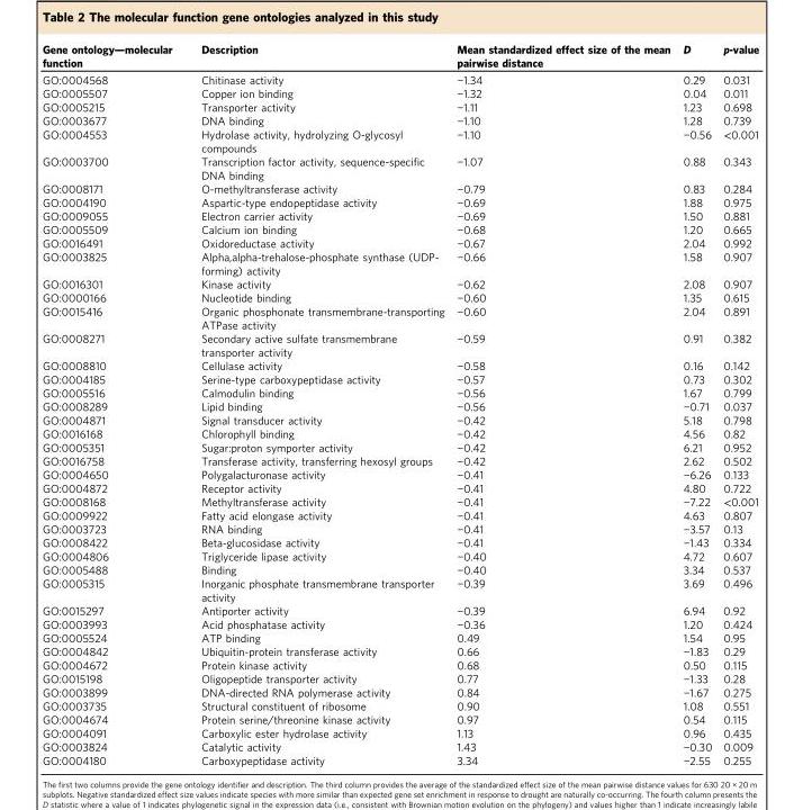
<table><thead><tr><td>Gene ontology—molecular function</td><td>Description</td><td>Mean standardized effect size of the mean pairwise distance</td><td>D</td><td>p-value</td></tr></thead><tbody><tr><td>GO:0004568</td><td>Chitinase activity</td><td>−1.34</td><td>0.29</td><td>0.031</td></tr><tr><td>GO:0005507</td><td>Copper ion binding</td><td>−1.32</td><td>0.04</td><td>0.011</td></tr><tr><td>GO:0005215</td><td>Transporter activity</td><td>−1.11</td><td>1.23</td><td>0.698</td></tr><tr><td>GO:0003677</td><td>DNA binding</td><td>−1.10</td><td>1.28</td><td>0.739</td></tr><tr><td>GO:0004553</td><td>Hydrolase activity, hydrolyzing O-glycosyl compounds</td><td>−1.10</td><td>−0.56</td><td>&lt;0.001</td></tr><tr><td>GO:0003700</td><td>Transcription factor activity, sequence-specific DNA binding</td><td>−1.07</td><td>0.88</td><td>0.343</td></tr><tr><td>GO:0008171</td><td>O-methyltransferase activity</td><td>−0.79</td><td>0.83</td><td>0.284</td></tr><tr><td>GO:0004190</td><td>Aspartic-type endopeptidase activity</td><td>−0.69</td><td>1.88</td><td>0.975</td></tr><tr><td>GO:0009055</td><td>Electron carrier activity</td><td>−0.69</td><td>1.50</td><td>0.881</td></tr><tr><td>GO:0005509</td><td>Calcium ion binding</td><td>−0.68</td><td>1.20</td><td>0.665</td></tr><tr><td>GO:0016491</td><td>Oxidoreductase activity</td><td>−0.67</td><td>2.04</td><td>0.992</td></tr><tr><td>GO:0003825</td><td>Alpha,alpha-trehalose-phosphate synthase (UDP- forming) activity</td><td>−0.66</td><td>1.58</td><td>0.907</td></tr><tr><td>GO:0016301</td><td>Kinase activity</td><td>−0.62</td><td>2.08</td><td>0.907</td></tr><tr><td>GO:0000166</td><td>Nucleotide binding</td><td>−0.60</td><td>1.35</td><td>0.615</td></tr><tr><td>GO:0015416</td><td>Organic phosphonate transmembrane-transporting ATPase activity</td><td>−0.60</td><td>2.04</td><td>0.891</td></tr><tr><td>GO:0008271</td><td>Secondary active sulfate transmembrane transporter activity</td><td>−0.59</td><td>0.91</td><td>0.382</td></tr><tr><td>GO:0008810</td><td>Cellulase activity</td><td>−0.58</td><td>0.16</td><td>0.142</td></tr><tr><td>GO:0004185</td><td>Serine-type carboxypeptidase activity</td><td>−0.57</td><td>0.73</td><td>0.302</td></tr><tr><td>GO:0005516</td><td>Calmodulin binding</td><td>−0.56</td><td>1.67</td><td>0.799</td></tr><tr><td>GO:0008289</td><td>Lipid binding</td><td>−0.56</td><td>−0.71</td><td>0.037</td></tr><tr><td>GO:0004871</td><td>Signal transducer activity</td><td>−0.42</td><td>5.18</td><td>0.798</td></tr><tr><td>GO:0016168</td><td>Chlorophyll binding</td><td>−0.42</td><td>4.56</td><td>0.82</td></tr><tr><td>GO:0005351</td><td>Sugar:proton symporter activity</td><td>−0.42</td><td>6.21</td><td>0.952</td></tr><tr><td>GO:0016758</td><td>Transferase activity, transferring hexosyl groups</td><td>−0.42</td><td>2.62</td><td>0.502</td></tr><tr><td>GO:0004650</td><td>Polygalacturonase activity</td><td>−0.41</td><td>−6.26</td><td>0.133</td></tr><tr><td>GO:0004872</td><td>Receptor activity</td><td>−0.41</td><td>4.80</td><td>0.722</td></tr><tr><td>GO:0008168</td><td>Methyltransferase activity</td><td>−0.41</td><td>−7.22</td><td>&lt;0.001</td></tr><tr><td>GO:0009922</td><td>Fatty acid elongase activity</td><td>−0.41</td><td>4.63</td><td>0.807</td></tr><tr><td>GO:0003723</td><td>RNA binding</td><td>−0.41</td><td>−3.57</td><td>0.13</td></tr><tr><td>GO:0008422</td><td>Beta-glucosidase activity</td><td>−0.41</td><td>−1.43</td><td>0.334</td></tr><tr><td>GO:0004806</td><td>Triglyceride lipase activity</td><td>−0.40</td><td>4.72</td><td>0.607</td></tr><tr><td>GO:0005488</td><td>Binding</td><td>−0.40</td><td>3.34</td><td>0.537</td></tr><tr><td>GO:0005315</td><td>Inorganic phosphate transmembrane transporter activity</td><td>−0.39</td><td>3.69</td><td>0.496</td></tr><tr><td>GO:0015297</td><td>Antiporter activity</td><td>−0.39</td><td>6.94</td><td>0.92</td></tr><tr><td>GO:0003993</td><td>Acid phosphatase activity</td><td>−0.36</td><td>1.20</td><td>0.424</td></tr><tr><td>GO:0005524</td><td>ATP binding</td><td>0.49</td><td>1.54</td><td>0.95</td></tr><tr><td>GO:0004842</td><td>Ubiquitin-protein transferase activity</td><td>0.66</td><td>−1.83</td><td>0.29</td></tr><tr><td>GO:0004672</td><td>Protein kinase activity</td><td>0.68</td><td>0.50</td><td>0.115</td></tr><tr><td>GO:0015198</td><td>Oligopeptide transporter activity</td><td>0.77</td><td>−1.33</td><td>0.28</td></tr><tr><td>GO:0003899</td><td>DNA-directed RNA polymerase activity</td><td>0.84</td><td>−1.67</td><td>0.275</td></tr><tr><td>GO:0003735</td><td>Structural constituent of ribosome</td><td>0.90</td><td>1.08</td><td>0.551</td></tr><tr><td>GO:0004674</td><td>Protein serine/threonine kinase activity</td><td>0.97</td><td>0.54</td><td>0.115</td></tr><tr><td>GO:0004091</td><td>Carboxylic ester hydrolase activity</td><td>1.13</td><td>0.96</td><td>0.435</td></tr><tr><td>GO:0003824</td><td>Catalytic activity</td><td>1.43</td><td>−0.30</td><td>0.009</td></tr><tr><td>GO:0004180</td><td>Carboxypeptidase activity</td><td>3.34</td><td>−2.55</td><td>0.255</td></tr></tbody></table>